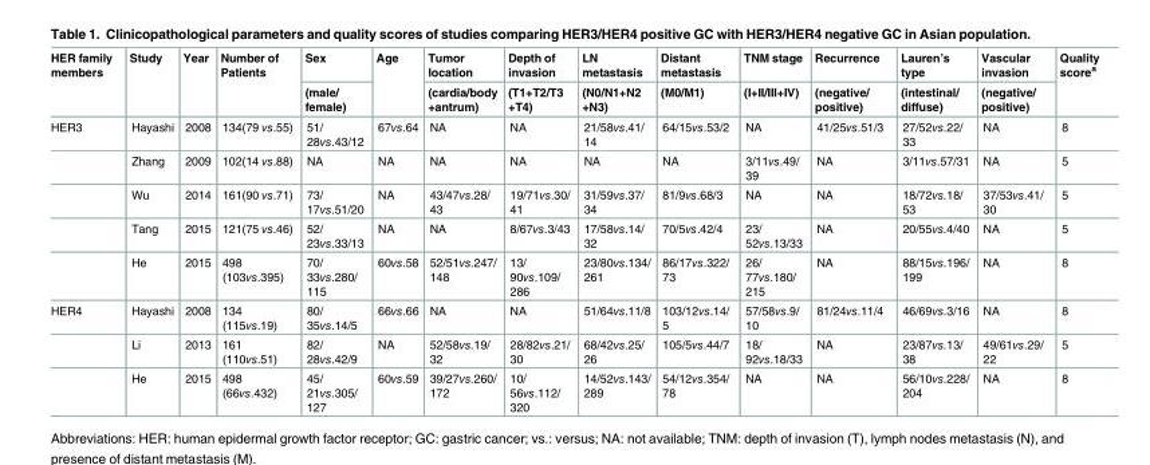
<table><thead><tr><td rowspan="2">HER family members</td><td rowspan="2">Study</td><td rowspan="2">Year</td><td rowspan="2">Number of Patients</td><td rowspan="2">Sex (male/ female)</td><td rowspan="2">Age</td><td rowspan="2">Tumor location (cardia/body +antrum)</td><td rowspan="2">Depth of invasion (T1+T2/T3 +T4)</td><td rowspan="2">LN metastasis (N0/N1+N2 +N3)</td><td rowspan="2">Distant metastasis (M0/M1)</td><td rowspan="2">TNM stage (I+II/III+IV)</td><td rowspan="2">Recurrence (negative/ positive)</td><td rowspan="2">Lauren’s type (intestinal/ diffuse)</td><td rowspan="2">Vascular invasion (negative/ positive)</td><td rowspan="2">Quality score<sup>a</sup></td></tr><tr></tr></thead><tbody><tr><td rowspan="5">HER3</td><td>Hayashi</td><td>2008</td><td>134(79 vs.55)</td><td>51/ 28vs.43/12</td><td>67vs.64</td><td>NA</td><td>NA</td><td>21/58vs.41/ 14</td><td>64/15vs.53/2</td><td>NA</td><td>41/25vs.51/3</td><td>27/52vs.22/ 33</td><td>NA</td><td>8</td></tr><tr><td>Zhang</td><td>2009</td><td>102(14 vs.88)</td><td>NA</td><td>NA</td><td>NA</td><td>NA</td><td>NA</td><td>NA</td><td>3/11vs.49/ 39</td><td>NA</td><td>3/11vs.57/31</td><td>NA</td><td>5</td></tr><tr><td>Wu</td><td>2014</td><td>161(90 vs.71)</td><td>73/ 17vs.51/20</td><td>NA</td><td>43/47vs.28/ 43</td><td>19/71vs.30/ 41</td><td>31/59vs.37/ 34</td><td>81/9vs.68/3</td><td>NA</td><td>NA</td><td>18/72vs.18/ 53</td><td>37/53vs.41/ 30</td><td>5</td></tr><tr><td>Tang</td><td>2015</td><td>121(75 vs.46)</td><td>52/ 23vs.33/13</td><td>NA</td><td>NA</td><td>8/67vs.3/43</td><td>17/58vs.14/ 32</td><td>70/5vs.42/4</td><td>23/ 52vs.13/33</td><td>NA</td><td>20/55vs.4/40</td><td>NA</td><td>5</td></tr><tr><td>He</td><td>2015</td><td>498 (103vs.395)</td><td>70/ 33vs.280/ 115</td><td>60vs.58</td><td>52/51vs.247/ 148</td><td>13/ 90vs.109/ 286</td><td>23/80vs.134/ 261</td><td>86/17vs.322/ 73</td><td>26/ 77vs.180/ 215</td><td>NA</td><td>88/15vs.196/ 199</td><td>NA</td><td>8</td></tr><tr><td rowspan="3">HER4</td><td>Hayashi</td><td>2008</td><td>134 (115vs.19)</td><td>80/ 35vs.14/5</td><td>66vs.66</td><td>NA</td><td>NA</td><td>51/64vs.11/8</td><td>103/12vs.14/ 5</td><td>57/58vs.9/ 10</td><td>81/24vs.11/4</td><td>46/69vs.3/16</td><td>NA</td><td>8</td></tr><tr><td>Li</td><td>2013</td><td>161 (110vs.51)</td><td>82/ 28vs.42/9</td><td>NA</td><td>52/58vs.19/ 32</td><td>28/82vs.21/ 30</td><td>68/42vs.25/ 26</td><td>105/5vs.44/7</td><td>18/ 92vs.18/33</td><td>NA</td><td>23/87vs.13/ 38</td><td>49/61vs.29/ 22</td><td>5</td></tr><tr><td>He</td><td>2015</td><td>498 (66vs.432)</td><td>45/ 21vs.305/ 127</td><td>60vs.59</td><td>39/27vs.260/ 172</td><td>10/ 56vs.112/ 320</td><td>14/52vs.143/ 289</td><td>54/12vs.354/ 78</td><td>NA</td><td>NA</td><td>56/10vs.228/ 204</td><td>NA</td><td>8</td></tr></tbody></table>